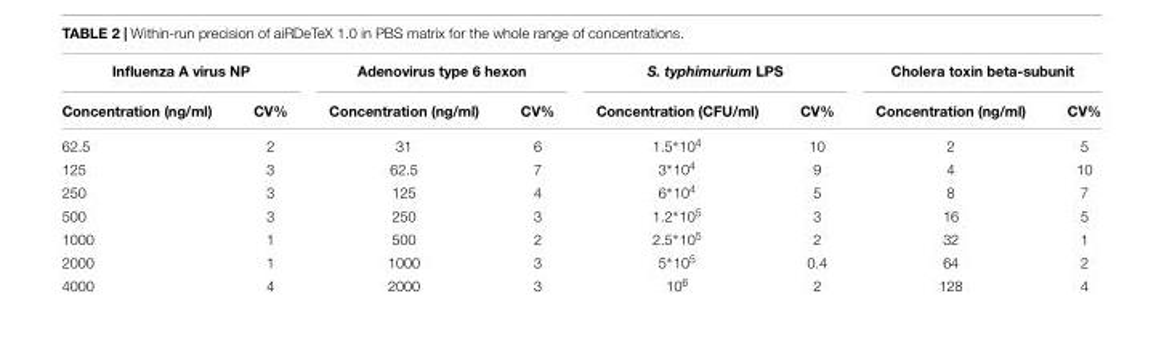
<table><thead><tr><td colspan="2">Influenza A virus NP</td><td colspan="2">Adenovirus type 6 hexon</td><td colspan="2">S. typhimurium LPS</td><td colspan="2">Cholera toxin beta-subunit</td></tr><tr><td>Concentration (ng/ml)</td><td>CV%</td><td>Concentration (ng/ml)</td><td>CV%</td><td>Concentration (CFU/ml)</td><td>CV%</td><td>Concentration (ng/ml)</td><td>CV%</td></tr></thead><tbody><tr><td>62.5</td><td>2</td><td>31</td><td>6</td><td>1.5∗10<sup>4</sup></td><td>10</td><td>2</td><td>5</td></tr><tr><td>125</td><td>3</td><td>62.5</td><td>7</td><td>3∗10<sup>4</sup></td><td>9</td><td>4</td><td>10</td></tr><tr><td>250</td><td>3</td><td>125</td><td>4</td><td>6∗10<sup>4</sup></td><td>5</td><td>8</td><td>7</td></tr><tr><td>500</td><td>3</td><td>250</td><td>3</td><td>1.2∗10<sup>5</sup></td><td>3</td><td>16</td><td>5</td></tr><tr><td>1000</td><td>1</td><td>500</td><td>2</td><td>2.5∗10<sup>5</sup></td><td>2</td><td>32</td><td>1</td></tr><tr><td>2000</td><td>1</td><td>1000</td><td>3</td><td>5∗10<sup>5</sup></td><td>0.4</td><td>64</td><td>2</td></tr><tr><td>4000</td><td>4</td><td>2000</td><td>3</td><td>10<sup>6</sup></td><td>2</td><td>128</td><td>4</td></tr></tbody></table>